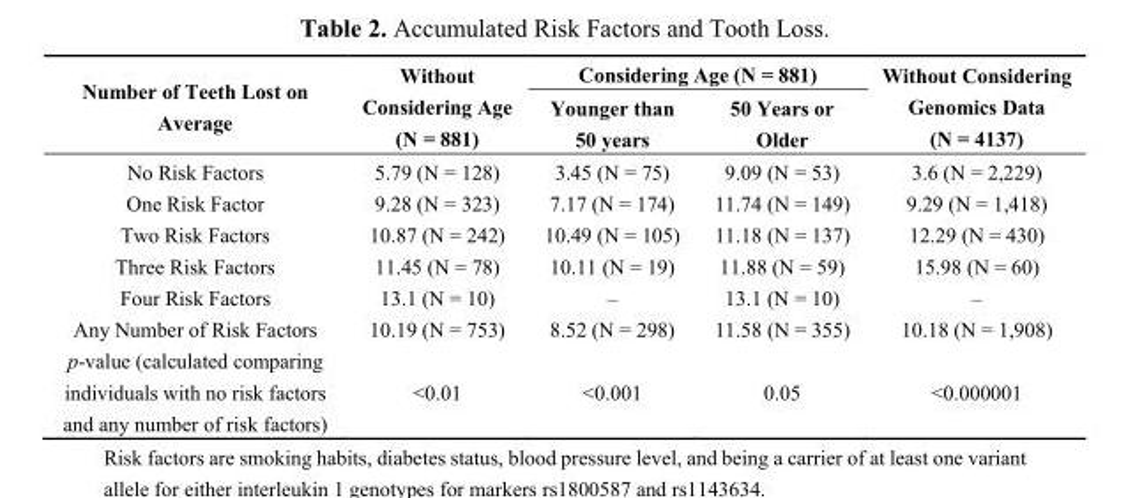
<table><thead><tr><td rowspan="2">Number of Teeth Lost on Average</td><td rowspan="2">Without Considering Age (N = 881)</td><td colspan="2">Considering Age (N = 881)</td><td rowspan="2">Without Considering Genomics Data (N = 4137)</td></tr><tr><td>Younger than 50 years</td><td>50 Years or Older</td></tr></thead><tbody><tr><td>No Risk Factors</td><td>5.79 (N = 128)</td><td>3.45 (N = 75)</td><td>9.09 (N = 53)</td><td>3.6 (N = 2,229)</td></tr><tr><td>One Risk Factor</td><td>9.28 (N = 323)</td><td>7.17 (N = 174)</td><td>11.74 (N = 149)</td><td>9.29 (N = 1,418)</td></tr><tr><td>Two Risk Factors</td><td>10.87 (N = 242)</td><td>10.49 (N = 105)</td><td>11.18 (N = 137)</td><td>12.29 (N = 430)</td></tr><tr><td>Three Risk Factors</td><td>11.45 (N = 78)</td><td>10.11 (N = 19)</td><td>11.88 (N = 59)</td><td>15.98 (N = 60)</td></tr><tr><td>Four Risk Factors</td><td>13.1 (N = 10)</td><td>–</td><td>13.1 (N = 10)</td><td>–</td></tr><tr><td>Any Number of Risk Factors</td><td>10.19 (N = 753)</td><td>8.52 (N = 298)</td><td>11.58 (N = 355)</td><td>10.18 (N = 1,908)</td></tr><tr><td>p-value (calculated comparing individuals with no risk factors and any number of risk factors)</td><td>&lt;0.01</td><td>&lt;0.001</td><td>0.05</td><td>&lt;0.000001</td></tr></tbody></table>